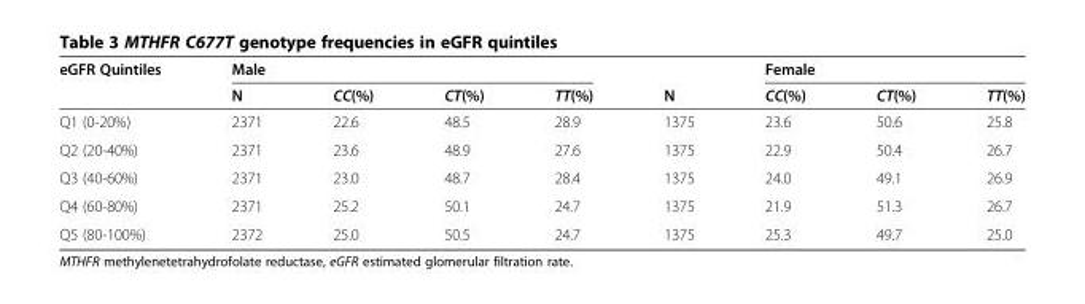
<table><thead><tr><td rowspan="2">eGFR Quintiles</td><td colspan="4">Male</td><td rowspan="2">N</td><td colspan="3">Female</td></tr><tr><td>N</td><td>CC(%)</td><td>CT(%)</td><td>TT(%)</td><td>CC(%)</td><td>CT(%)</td><td>TT(%)</td></tr></thead><tbody><tr><td>Q1 (0-20%)</td><td>2371</td><td>22.6</td><td>48.5</td><td>28.9</td><td>1375</td><td>23.6</td><td>50.6</td><td>25.8</td></tr><tr><td>Q2 (20-40%)</td><td>2371</td><td>23.6</td><td>48.9</td><td>27.6</td><td>1375</td><td>22.9</td><td>50.4</td><td>26.7</td></tr><tr><td>Q3 (40-60%)</td><td>2371</td><td>23.0</td><td>48.7</td><td>28.4</td><td>1375</td><td>24.0</td><td>49.1</td><td>26.9</td></tr><tr><td>Q4 (60-80%)</td><td>2371</td><td>25.2</td><td>50.1</td><td>24.7</td><td>1375</td><td>21.9</td><td>51.3</td><td>26.7</td></tr><tr><td>Q5 (80-100%)</td><td>2372</td><td>25.0</td><td>50.5</td><td>24.7</td><td>1375</td><td>25.3</td><td>49.7</td><td>25.0</td></tr></tbody></table>